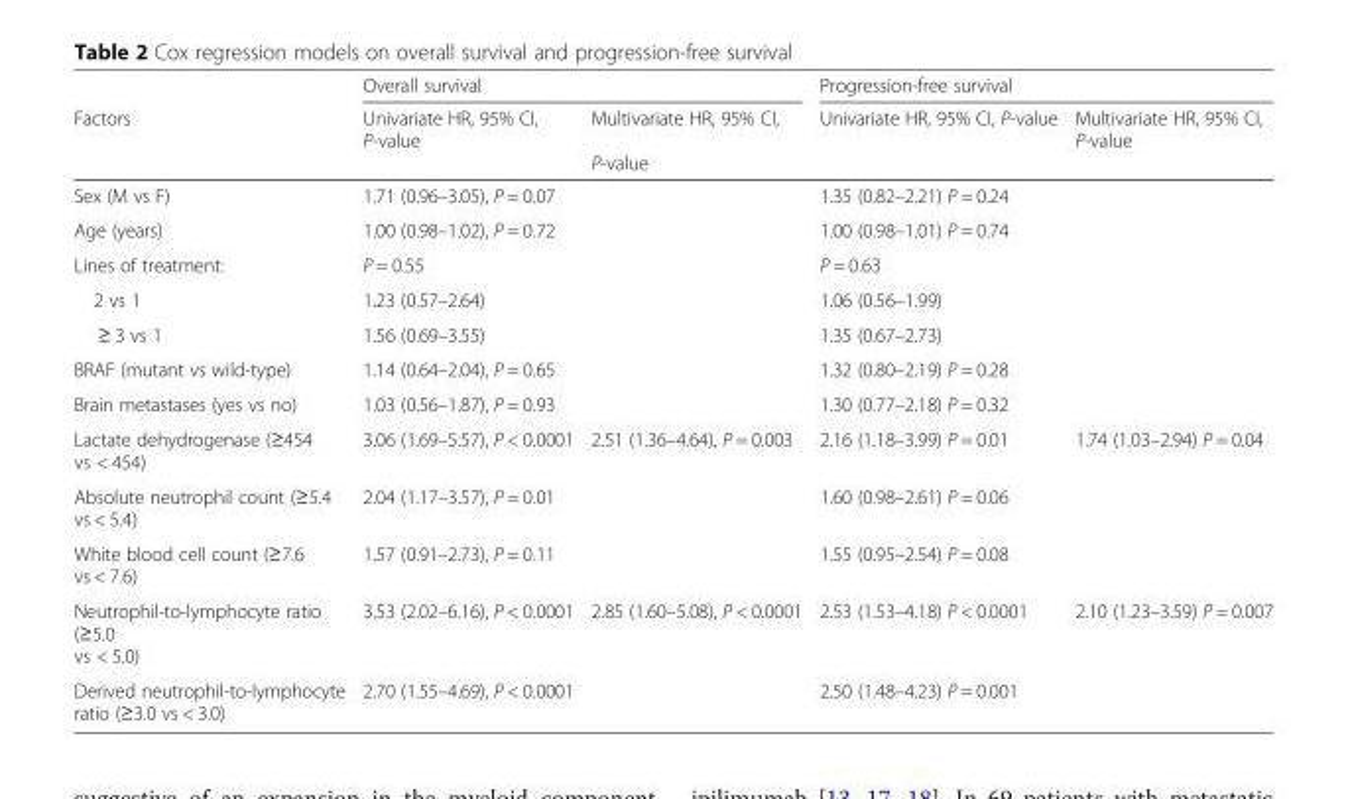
<table><thead><tr><td rowspan="2">Factors</td><td colspan="2">Overall survival</td><td colspan="2">Progression-free survival</td></tr><tr><td>Univariate HR, 95% CI, P-value</td><td>Multivariate HR, 95% CI, P-value</td><td>Univariate HR, 95% CI, P-value</td><td>Multivariate HR, 95% CI, P-value</td></tr></thead><tbody><tr><td>Sex (M vs F)</td><td>1.71 (0.96–3.05), P = 0.07</td><td></td><td>1.35 (0.82–2.21) P = 0.24</td><td></td></tr><tr><td>Age (years)</td><td>1.00 (0.98–1.02), P = 0.72</td><td></td><td>1.00 (0.98–1.01) P = 0.74</td><td></td></tr><tr><td>Lines of treatment:</td><td>P = 0.55</td><td></td><td>P = 0.63</td><td></td></tr><tr><td>2 vs 1</td><td>1.23 (0.57–2.64)</td><td></td><td>1.06 (0.56–1.99)</td><td></td></tr><tr><td>≥ 3 vs 1</td><td>1.56 (0.69–3.55)</td><td></td><td>1.35 (0.67–2.73)</td><td></td></tr><tr><td>BRAF (mutant vs wild-type)</td><td>1.14 (0.64–2.04), P = 0.65</td><td></td><td>1.32 (0.80–2.19) P = 0.28</td><td></td></tr><tr><td>Brain metastases (yes vs no)</td><td>1.03 (0.56–1.87), P = 0.93</td><td></td><td>1.30 (0.77–2.18) P = 0.32</td><td></td></tr><tr><td>Lactate dehydrogenase (≥454 vs &lt; 454)</td><td>3.06 (1.69–5.57), P &lt; 0.0001</td><td>2.51 (1.36–4.64), P = 0.003</td><td>2.16 (1.18–3.99) P = 0.01</td><td>1.74 (1.03–2.94) P = 0.04</td></tr><tr><td>Absolute neutrophil count (≥5.4 vs &lt; 5.4)</td><td>2.04 (1.17–3.57), P = 0.01</td><td></td><td>1.60 (0.98–2.61) P = 0.06</td><td></td></tr><tr><td>White blood cell count (≥7.6 vs &lt; 7.6)</td><td>1.57 (0.91–2.73), P = 0.11</td><td></td><td>1.55 (0.95–2.54) P = 0.08</td><td></td></tr><tr><td>Neutrophil-to-lymphocyte ratio (≥5.0 vs &lt; 5.0)</td><td>3.53 (2.02–6.16), P &lt; 0.0001</td><td>2.85 (1.60–5.08), P &lt; 0.0001</td><td>2.53 (1.53–4.18) P &lt; 0.0001</td><td>2.10 (1.23–3.59) P = 0.007</td></tr><tr><td>Derived neutrophil-to-lymphocyte ratio (≥3.0 vs &lt; 3.0)</td><td>2.70 (1.55–4.69), P &lt; 0.0001</td><td></td><td>2.50 (1.48–4.23) P = 0.001</td><td></td></tr></tbody></table>